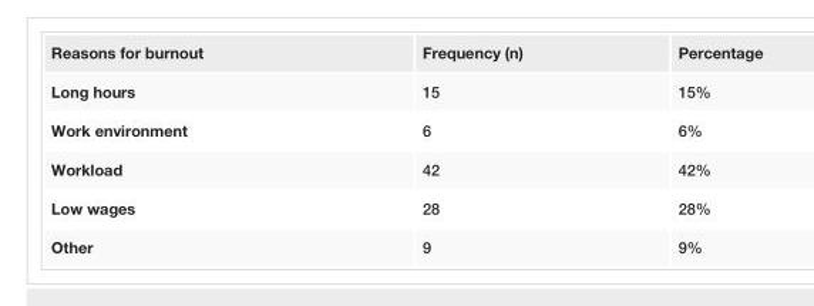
<table><tbody><tr><td>Reasons for burnout</td><td>Frequency (n)</td><td>Percentage</td></tr><tr><td>Long hours</td><td>15</td><td>15%</td></tr><tr><td>Work environment</td><td>6</td><td>6%</td></tr><tr><td>Workload</td><td>42</td><td>42%</td></tr><tr><td>Low wages</td><td>28</td><td>28%</td></tr><tr><td>Other</td><td>9</td><td>9%</td></tr></tbody></table>